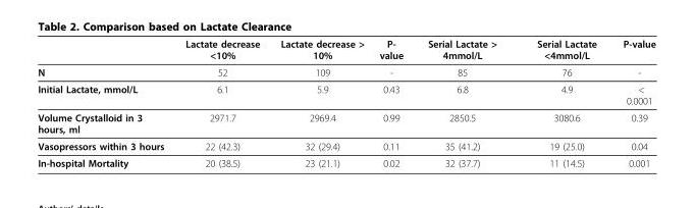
<table><thead><tr><td></td><td>Lactate decrease &lt;10%</td><td>Lactate decrease &gt; 10%</td><td>P- value</td><td>Serial Lactate &gt; 4mmol/L</td><td>Serial Lactate &lt;4mmol/L</td><td>P-value</td></tr></thead><tbody><tr><td>N</td><td>52</td><td>109</td><td>-</td><td>85</td><td>76</td><td>-</td></tr><tr><td>Initial Lactate, mmol/L</td><td>6.1</td><td>5.9</td><td>0.43</td><td>6.8</td><td>4.9</td><td>&lt; 0.0001</td></tr><tr><td>Volume Crystalloid in 3 hours, ml</td><td>2971.7</td><td>2969.4</td><td>0.99</td><td>2850.5</td><td>3080.6</td><td>0.39</td></tr><tr><td>Vasopressors within 3 hours</td><td>22 (42.3)</td><td>32 (29.4)</td><td>0.11</td><td>35 (41.2)</td><td>19 (25.0)</td><td>0.04</td></tr><tr><td>In-hospital Mortality</td><td>20 (38.5)</td><td>23 (21.1)</td><td>0.02</td><td>32 (37.7)</td><td>11 (14.5)</td><td>0.001</td></tr></tbody></table>